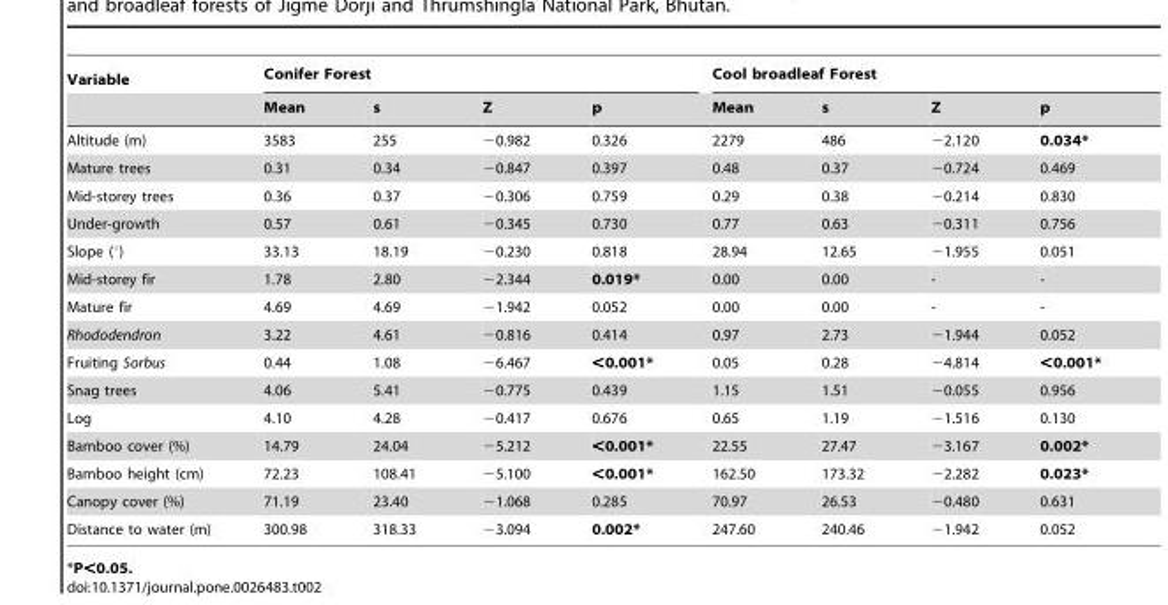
<table><thead><tr><td rowspan="2">Variable</td><td colspan="4">Conifer Forest</td><td colspan="4">Cool broadleaf Forest</td></tr><tr><td>Mean</td><td>s</td><td>Z</td><td>p</td><td>Mean</td><td>s</td><td>Z</td><td>p</td></tr></thead><tbody><tr><td>Altitude (m)</td><td>3583</td><td>255</td><td>−0.982</td><td>0.326</td><td>2279</td><td>486</td><td>−2.120</td><td>0.034*</td></tr><tr><td>Mature trees</td><td>0.31</td><td>0.34</td><td>−0.847</td><td>0.397</td><td>0.48</td><td>0.37</td><td>−0.724</td><td>0.469</td></tr><tr><td>Mid-storey trees</td><td>0.36</td><td>0.37</td><td>−0.306</td><td>0.759</td><td>0.29</td><td>0.38</td><td>−0.214</td><td>0.830</td></tr><tr><td>Under-growth</td><td>0.57</td><td>0.61</td><td>−0.345</td><td>0.730</td><td>0.77</td><td>0.63</td><td>−0.311</td><td>0.756</td></tr><tr><td>Slope (°)</td><td>33.13</td><td>18.19</td><td>−0.230</td><td>0.818</td><td>28.94</td><td>12.65</td><td>−1.955</td><td>0.051</td></tr><tr><td>Mid-storey fir</td><td>1.78</td><td>2.80</td><td>−2.344</td><td>0.019*</td><td>0.00</td><td>0.00</td><td>-</td><td>-</td></tr><tr><td>Mature fir</td><td>4.69</td><td>4.69</td><td>−1.942</td><td>0.052</td><td>0.00</td><td>0.00</td><td>-</td><td>-</td></tr><tr><td>Rhododendron</td><td>3.22</td><td>4.61</td><td>−0.816</td><td>0.414</td><td>0.97</td><td>2.73</td><td>−1.944</td><td>0.052</td></tr><tr><td>Fruiting Sorbus</td><td>0.44</td><td>1.08</td><td>−6.467</td><td>&lt;0.001*</td><td>0.05</td><td>0.28</td><td>−4.814</td><td>&lt;0.001*</td></tr><tr><td>Snag trees</td><td>4.06</td><td>5.41</td><td>−0.775</td><td>0.439</td><td>1.15</td><td>1.51</td><td>−0.055</td><td>0.956</td></tr><tr><td>Log</td><td>4.10</td><td>4.28</td><td>−0.417</td><td>0.676</td><td>0.65</td><td>1.19</td><td>−1.516</td><td>0.130</td></tr><tr><td>Bamboo cover (%)</td><td>14.79</td><td>24.04</td><td>−5.212</td><td>&lt;0.001*</td><td>22.55</td><td>27.47</td><td>−3.167</td><td>0.002*</td></tr><tr><td>Bamboo height (cm)</td><td>72.23</td><td>108.41</td><td>−5.100</td><td>&lt;0.001*</td><td>162.50</td><td>173.32</td><td>−2.282</td><td>0.023*</td></tr><tr><td>Canopy cover (%)</td><td>71.19</td><td>23.40</td><td>−1.068</td><td>0.285</td><td>70.97</td><td>26.53</td><td>−0.480</td><td>0.631</td></tr><tr><td>Distance to water (m)</td><td>300.98</td><td>318.33</td><td>−3.094</td><td>0.002*</td><td>247.60</td><td>240.46</td><td>−1.942</td><td>0.052</td></tr></tbody></table>